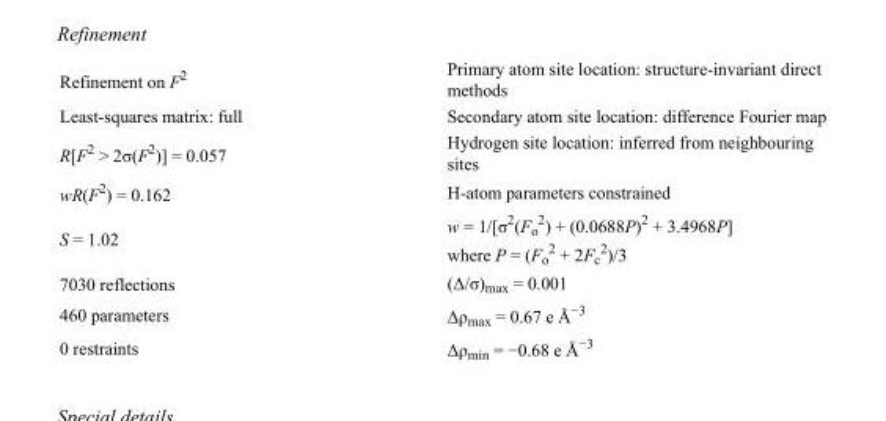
<table><tbody><tr><td>Refinement on F<sup>2</sup></td><td>Primary atom site location: structure-invariant direct methods</td></tr><tr><td>Least-squares matrix: full</td><td>Secondary atom site location: difference Fourier map</td></tr><tr><td>R[F<sup>2</sup> &gt; 2σ(F<sup>2</sup>)] = 0.057</td><td>Hydrogen site location: inferred from neighbouring sites</td></tr><tr><td>wR(F<sup>2</sup>) = 0.162</td><td>H-atom parameters constrained</td></tr><tr><td>S = 1.02</td><td>w = 1/[σ<sup>2</sup>(F<sub>o</sub> <sup>2</sup>) + (0.0688P)<sup>2</sup> + 3.4968P] where P = (F<sub>o</sub> <sup>2</sup> + 2F<sub>c</sub> <sup>2</sup>)/3</td></tr><tr><td>7030 reflections</td><td>(Δ/σ)<sub>max</sub> = 0.001</td></tr><tr><td>460 parameters</td><td>Δρ<sub>max</sub> = 0.67 e Å<sup>−3</sup></td></tr><tr><td>0 restraints</td><td>Δρ<sub>min</sub> = −0.68 e Å<sup>−3</sup></td></tr></tbody></table>